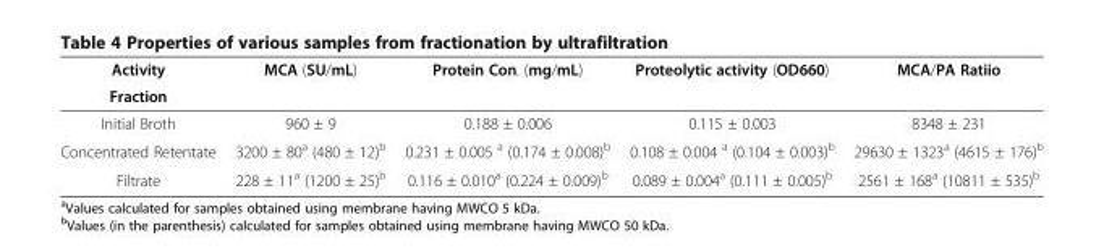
<table><thead><tr><td rowspan="2">Activity Fraction</td><td rowspan="2">MCA (SU/mL)</td><td rowspan="2">Protein Con. (mg/mL)</td><td rowspan="2">Proteolytic activity (OD660)</td><td rowspan="2">MCA/PA Ratiio</td></tr><tr></tr></thead><tbody><tr><td>Initial Broth</td><td>960 ± 9</td><td>0.188 ± 0.006</td><td>0.115 ± 0.003</td><td>8348 ± 231</td></tr><tr><td>Concentrated Retentate</td><td>3200 ± 80<sup>a</sup> (480 ± 12)<sup>b</sup></td><td>0.231 ± 0.005 <sup>a</sup> (0.174 ± 0.008)<sup>b</sup></td><td>0.108 ± 0.004 <sup>a</sup> (0.104 ± 0.003)<sup>b</sup></td><td>29630 ± 1323<sup>a</sup> (4615 ± 176)<sup>b</sup></td></tr><tr><td>Filtrate</td><td>228 ± 11<sup>a</sup> (1200 ± 25)<sup>b</sup></td><td>0.116 ± 0.010<sup>a</sup> (0.224 ± 0.009)<sup>b</sup></td><td>0.089 ± 0.004<sup>a</sup> (0.111 ± 0.005)<sup>b</sup></td><td>2561 ± 168<sup>a</sup> (10811 ± 535)<sup>b</sup></td></tr></tbody></table>